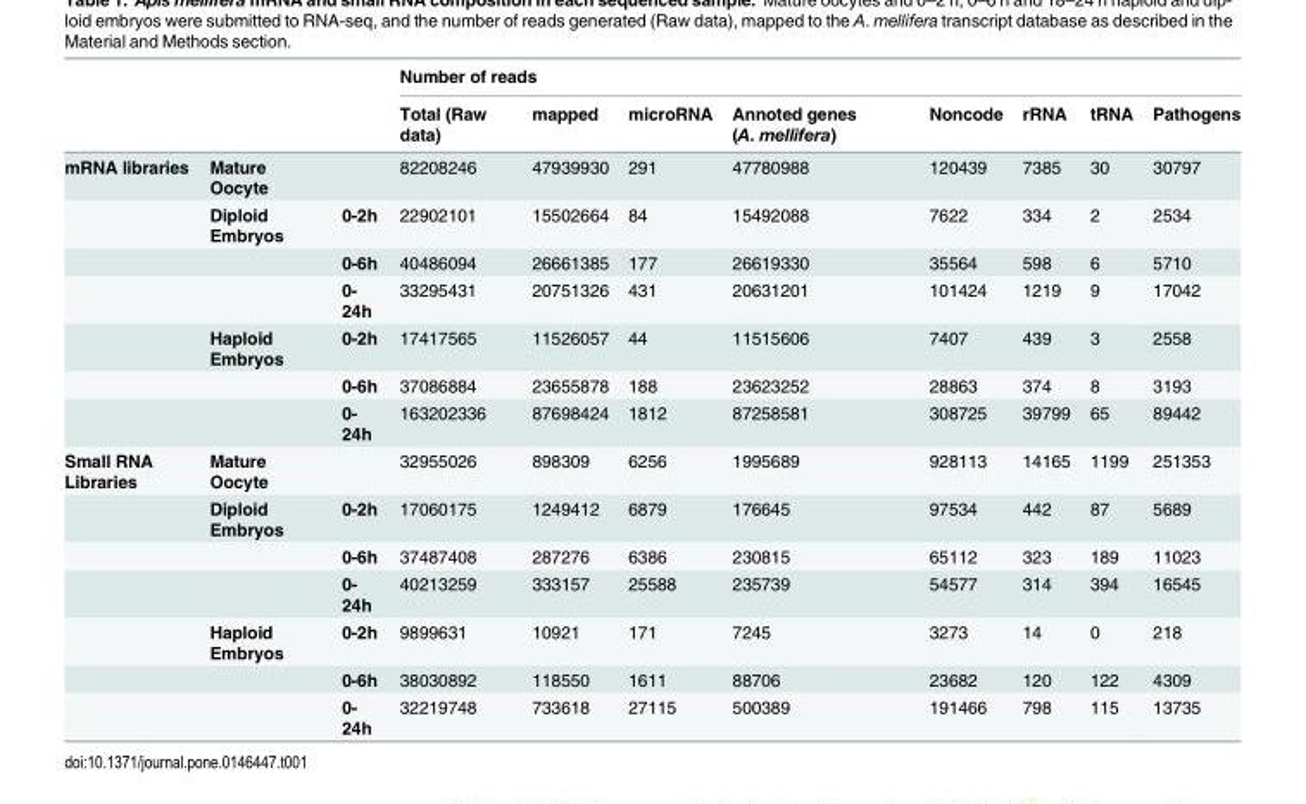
<table><thead><tr><td rowspan="2"></td><td rowspan="2"></td><td rowspan="2"></td><td colspan="8">Number of reads</td></tr><tr><td>Total (Raw data)</td><td>mapped</td><td>microRNA</td><td>Annoted genes (A. mellifera)</td><td>Noncode</td><td>rRNA</td><td>tRNA</td><td>Pathogens</td></tr></thead><tbody><tr><td rowspan="7">mRNA libraries</td><td>Mature Oocyte</td><td></td><td>82208246</td><td>47939930</td><td>291</td><td>47780988</td><td>120439</td><td>7385</td><td>30</td><td>30797</td></tr><tr><td>Diploid Embryos</td><td>0-2h</td><td>22902101</td><td>15502664</td><td>84</td><td>15492088</td><td>7622</td><td>334</td><td>2</td><td>2534</td></tr><tr><td></td><td>0-6h</td><td>40486094</td><td>26661385</td><td>177</td><td>26619330</td><td>35564</td><td>598</td><td>6</td><td>5710</td></tr><tr><td></td><td>0- 24h</td><td>33295431</td><td>20751326</td><td>431</td><td>20631201</td><td>101424</td><td>1219</td><td>9</td><td>17042</td></tr><tr><td>Haploid Embryos</td><td>0-2h</td><td>17417565</td><td>11526057</td><td>44</td><td>11515606</td><td>7407</td><td>439</td><td>3</td><td>2558</td></tr><tr><td></td><td>0-6h</td><td>37086884</td><td>23655878</td><td>188</td><td>23623252</td><td>28863</td><td>374</td><td>8</td><td>3193</td></tr><tr><td></td><td>0- 24h</td><td>163202336</td><td>87698424</td><td>1812</td><td>87258581</td><td>308725</td><td>39799</td><td>65</td><td>89442</td></tr><tr><td rowspan="7">Small RNA Libraries</td><td>Mature Oocyte</td><td></td><td>32955026</td><td>898309</td><td>6256</td><td>1995689</td><td>928113</td><td>14165</td><td>1199</td><td>251353</td></tr><tr><td>Diploid Embryos</td><td>0-2h</td><td>17060175</td><td>1249412</td><td>6879</td><td>176645</td><td>97534</td><td>442</td><td>87</td><td>5689</td></tr><tr><td></td><td>0-6h</td><td>37487408</td><td>287276</td><td>6386</td><td>230815</td><td>65112</td><td>323</td><td>189</td><td>11023</td></tr><tr><td></td><td>0- 24h</td><td>40213259</td><td>333157</td><td>25588</td><td>235739</td><td>54577</td><td>314</td><td>394</td><td>16545</td></tr><tr><td>Haploid Embryos</td><td>0-2h</td><td>9899631</td><td>10921</td><td>171</td><td>7245</td><td>3273</td><td>14</td><td>0</td><td>218</td></tr><tr><td></td><td>0-6h</td><td>38030892</td><td>118550</td><td>1611</td><td>88706</td><td>23682</td><td>120</td><td>122</td><td>4309</td></tr><tr><td></td><td>0- 24h</td><td>32219748</td><td>733618</td><td>27115</td><td>500389</td><td>191466</td><td>798</td><td>115</td><td>13735</td></tr></tbody></table>